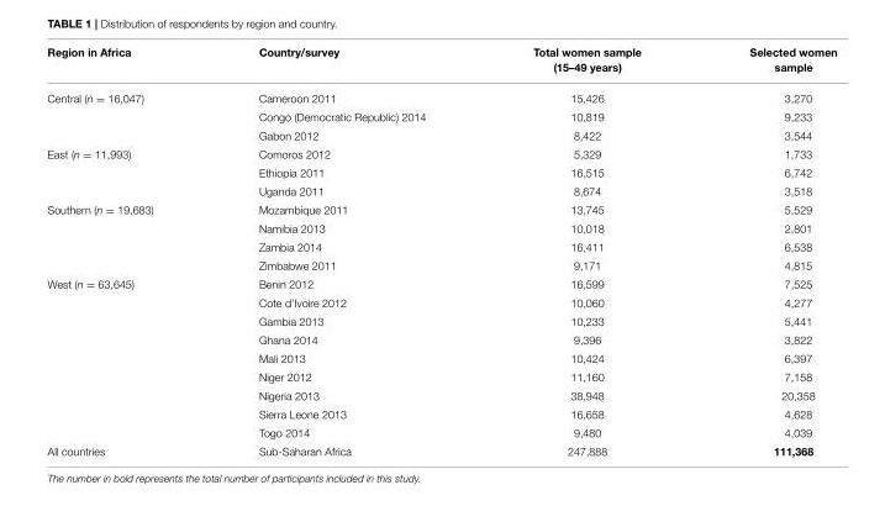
<table><thead><tr><td>Region in Africa</td><td>Country/survey</td><td>Total women sample (15–49 years)</td><td>Selected women sample</td></tr></thead><tbody><tr><td rowspan="3">Central (n = 16,047)</td><td>Cameroon 2011</td><td>15,426</td><td>3,270</td></tr><tr><td>Congo (Democratic Republic) 2014</td><td>10,819</td><td>9,233</td></tr><tr><td>Gabon 2012</td><td>8,422</td><td>3,544</td></tr><tr><td rowspan="3">East (n = 11,993)</td><td>Comoros 2012</td><td>5,329</td><td>1,733</td></tr><tr><td>Ethiopia 2011</td><td>16,515</td><td>6,742</td></tr><tr><td>Uganda 2011</td><td>8,674</td><td>3,518</td></tr><tr><td rowspan="4">Southern (n = 19,683)</td><td>Mozambique 2011</td><td>13,745</td><td>5,529</td></tr><tr><td>Namibia 2013</td><td>10,018</td><td>2,801</td></tr><tr><td>Zambia 2014</td><td>16,411</td><td>6,538</td></tr><tr><td>Zimbabwe 2011</td><td>9,171</td><td>4,815</td></tr><tr><td rowspan="9">West (n = 63,645)</td><td>Benin 2012</td><td>16,599</td><td>7,525</td></tr><tr><td>Cote d’Ivoire 2012</td><td>10,060</td><td>4,277</td></tr><tr><td>Gambia 2013</td><td>10,233</td><td>5,441</td></tr><tr><td>Ghana 2014</td><td>9,396</td><td>3,822</td></tr><tr><td>Mali 2013</td><td>10,424</td><td>6,397</td></tr><tr><td>Niger 2012</td><td>11,160</td><td>7,158</td></tr><tr><td>Nigeria 2013</td><td>38,948</td><td>20,358</td></tr><tr><td>Sierra Leone 2013</td><td>16,658</td><td>4,628</td></tr><tr><td>Togo 2014</td><td>9,480</td><td>4,039</td></tr><tr><td>All countries</td><td>Sub-Saharan Africa</td><td>247,888</td><td>111,368</td></tr></tbody></table>